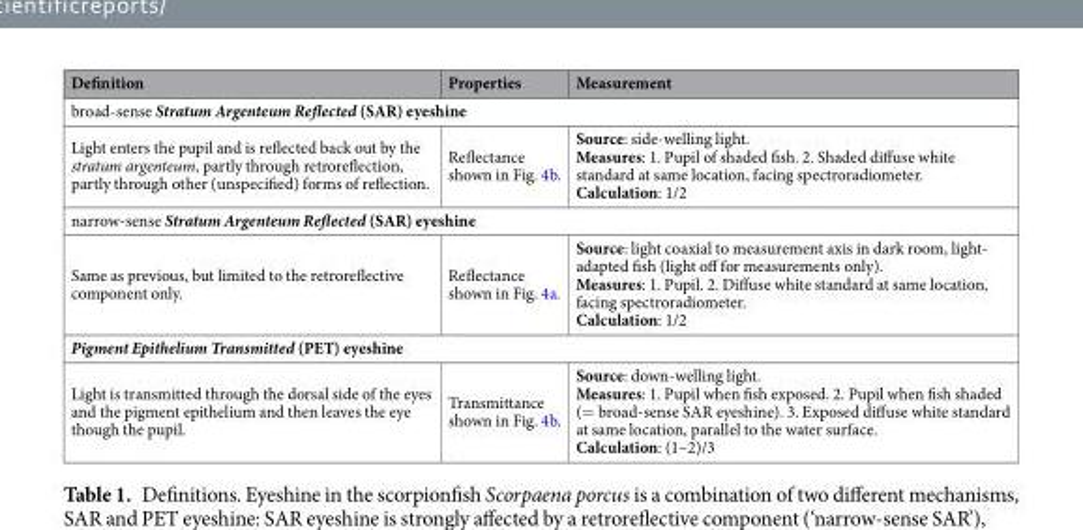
<table><thead><tr><td>Definition</td><td>Properties</td><td>Measurement</td></tr></thead><tbody><tr><td colspan="3">broad-sense Stratum Argenteum Reflected (SAR) eyeshine</td></tr><tr><td>Light enters the pupil and is reflected back out by the stratum argenteum, partly through retroreflection, partly through other (unspecified) forms of reflection.</td><td>Reflectance shown in Fig. 4b.</td><td>Source: side-welling light. Measures: 1. Pupil of shaded fish. 2. Shaded diffuse white standard at same location, facing spectroradiometer. Calculation: 1/2</td></tr><tr><td colspan="3">narrow-sense Stratum Argenteum Reflected (SAR) eyeshine</td></tr><tr><td>Same as previous, but limited to the retroreflective component only.</td><td>Reflectance shown in Fig. 4a.</td><td>Source: light coaxial to measurement axis in dark room, light- adapted fish (light off for measurements only). Measures: 1. Pupil. 2. Diffuse white standard at same location, facing spectroradiometer. Calculation: 1/2</td></tr><tr><td colspan="3">Pigment Epithelium Transmitted (PET) eyeshine</td></tr><tr><td>Light is transmitted through the dorsal side of the eyes and the pigment epithelium and then leaves the eye though the pupil.</td><td>Transmittance shown in Fig. 4b.</td><td>Source: down-welling light. Measures: 1. Pupil when fish exposed. 2. Pupil when fish shaded (= broad-sense SAR eyeshine). 3. Exposed diffuse white standard at same location, parallel to the water surface. Calculation: (1–2)/3</td></tr></tbody></table>